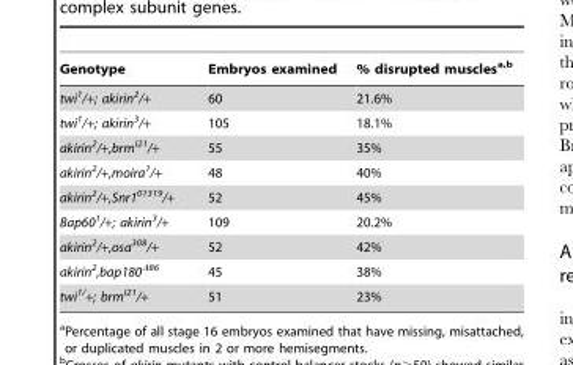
<table><thead><tr><td>Genotype</td><td>Embryos examined</td><td>% disrupted muscles<sup>a,</sup>b</td></tr></thead><tbody><tr><td>twi<sup>1</sup>/+; akirin<sup>2</sup>/+</td><td>60</td><td>21.6%</td></tr><tr><td>twi<sup>1</sup>/+; akirin<sup>3</sup>/+</td><td>105</td><td>18.1%</td></tr><tr><td>akirin<sup>2</sup>/+,brm<sup>I21</sup>/+</td><td>55</td><td>35%</td></tr><tr><td>akirin<sup>2</sup>/+,moira<sup>1</sup>/+</td><td>48</td><td>40%</td></tr><tr><td>akirin<sup>2</sup>/+,Snr1<sup>01319</sup>/+</td><td>52</td><td>45%</td></tr><tr><td>Bap60<sup>1</sup>/+; akirin<sup>3</sup>/+</td><td>109</td><td>20.2%</td></tr><tr><td>akirin<sup>2</sup>/+,osa<sup>308</sup>/+</td><td>52</td><td>42%</td></tr><tr><td>akirin<sup>2</sup>,bap180<sup>Δ86</sup></td><td>45</td><td>38%</td></tr><tr><td>twi<sup>1/</sup>+; brm<sup>I21</sup>/+</td><td>51</td><td>23%</td></tr></tbody></table>